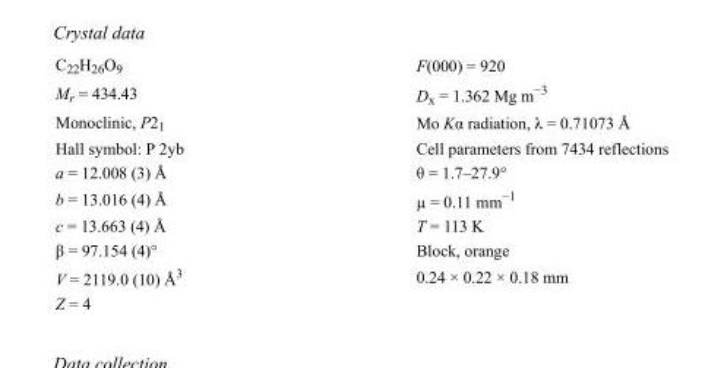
<table><tbody><tr><td>C<sub>22</sub>H<sub>26</sub>O<sub>9</sub></td><td>F(000) = 920</td></tr><tr><td>M<sub>r</sub> = 434.43</td><td>D<sub>x</sub> = 1.362 Mg m<sup>−3</sup></td></tr><tr><td>Monoclinic, P2<sub>1</sub></td><td>Mo Kα radiation, λ = 0.71073 Å</td></tr><tr><td>Hall symbol: P 2yb</td><td>Cell parameters from 7434 reflections</td></tr><tr><td>a = 12.008 (3) Å</td><td>θ = 1.7–27.9°</td></tr><tr><td>b = 13.016 (4) Å</td><td>µ = 0.11 mm<sup>−1</sup></td></tr><tr><td>c = 13.663 (4) Å</td><td>T = 113 K</td></tr><tr><td>β = 97.154 (4)°</td><td>Block, orange</td></tr><tr><td>V = 2119.0 (10) Å<sup>3</sup></td><td>0.24 × 0.22 × 0.18 mm</td></tr><tr><td>Z = 4</td><td></td></tr></tbody></table>